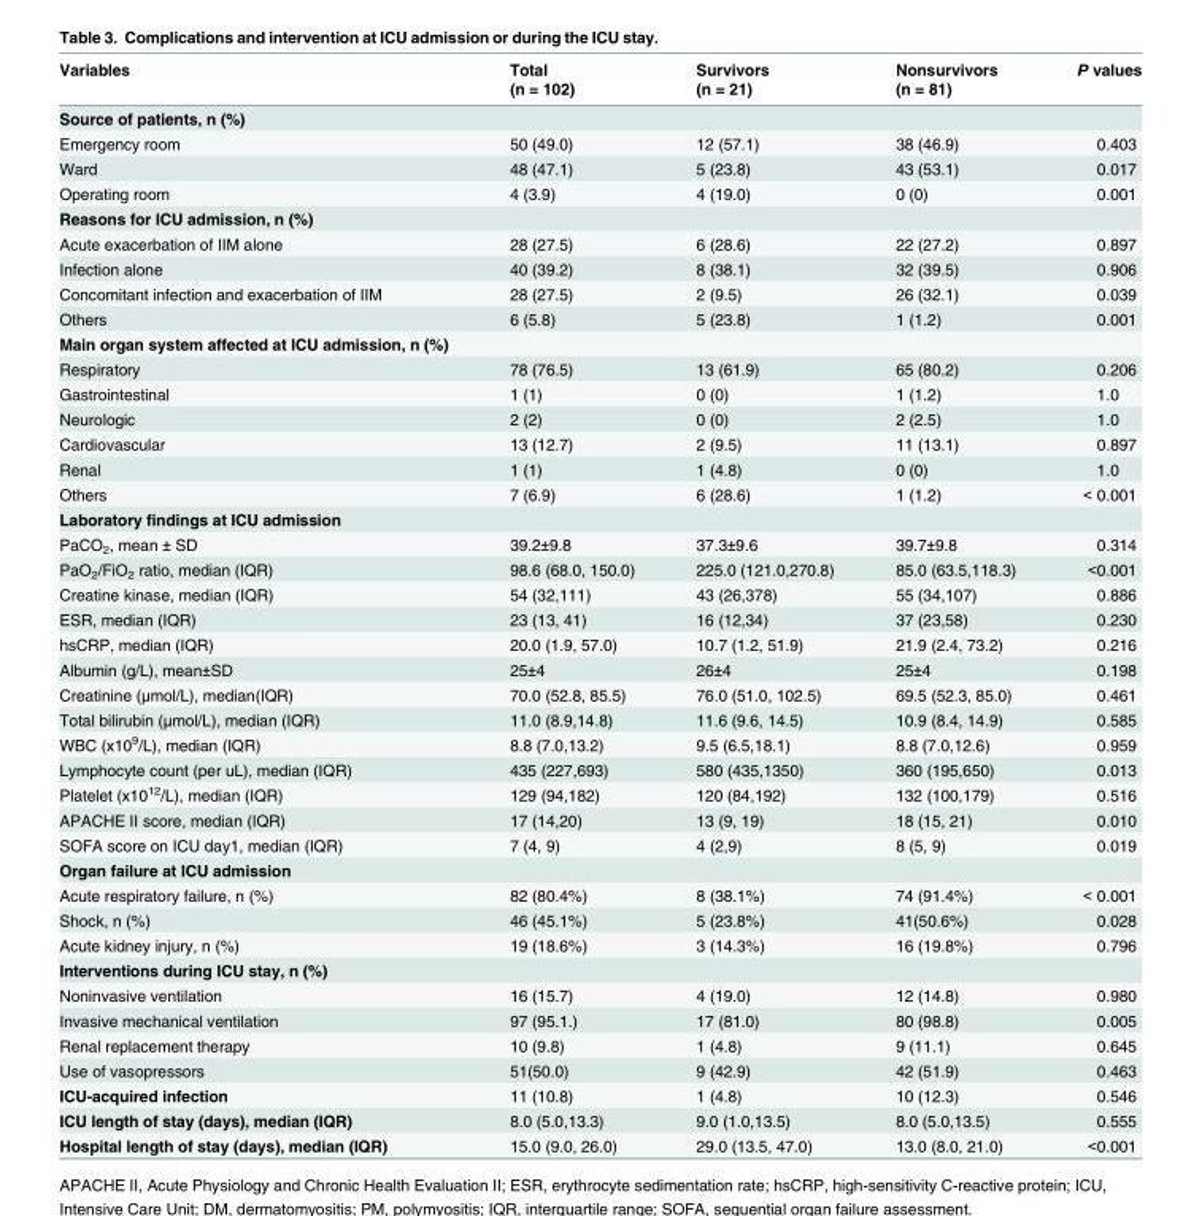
<table><thead><tr><td rowspan="2">Variables</td><td rowspan="2">Total (n = 102)</td><td rowspan="2">Survivors (n = 21)</td><td rowspan="2">Nonsurvivors (n = 81)</td><td rowspan="2">P values</td></tr><tr></tr></thead><tbody><tr><td colspan="5">Source of patients, n (%)</td></tr><tr><td>Emergency room</td><td>50 (49.0)</td><td>12 (57.1)</td><td>38 (46.9)</td><td>0.403</td></tr><tr><td>Ward</td><td>48 (47.1)</td><td>5 (23.8)</td><td>43 (53.1)</td><td>0.017</td></tr><tr><td>Operating room</td><td>4 (3.9)</td><td>4 (19.0)</td><td>0 (0)</td><td>0.001</td></tr><tr><td colspan="5">Reasons for ICU admission, n (%)</td></tr><tr><td>Acute exacerbation of IIM alone</td><td>28 (27.5)</td><td>6 (28.6)</td><td>22 (27.2)</td><td>0.897</td></tr><tr><td>Infection alone</td><td>40 (39.2)</td><td>8 (38.1)</td><td>32 (39.5)</td><td>0.906</td></tr><tr><td>Concomitant infection and exacerbation of IIM</td><td>28 (27.5)</td><td>2 (9.5)</td><td>26 (32.1)</td><td>0.039</td></tr><tr><td>Others</td><td>6 (5.8)</td><td>5 (23.8)</td><td>1 (1.2)</td><td>0.001</td></tr><tr><td colspan="5">Main organ system affected at ICU admission, n (%)</td></tr><tr><td>Respiratory</td><td>78 (76.5)</td><td>13 (61.9)</td><td>65 (80.2)</td><td>0.206</td></tr><tr><td>Gastrointestinal</td><td>1 (1)</td><td>0 (0)</td><td>1 (1.2)</td><td>1.0</td></tr><tr><td>Neurologic</td><td>2 (2)</td><td>0 (0)</td><td>2 (2.5)</td><td>1.0</td></tr><tr><td>Cardiovascular</td><td>13 (12.7)</td><td>2 (9.5)</td><td>11 (13.1)</td><td>0.897</td></tr><tr><td>Renal</td><td>1 (1)</td><td>1 (4.8)</td><td>0 (0)</td><td>1.0</td></tr><tr><td>Others</td><td>7 (6.9)</td><td>6 (28.6)</td><td>1 (1.2)</td><td>&lt; 0.001</td></tr><tr><td colspan="5">Laboratory findings at ICU admission</td></tr><tr><td>PaCO<sub>2</sub>, mean ± SD</td><td>39.2±9.8</td><td>37.3±9.6</td><td>39.7±9.8</td><td>0.314</td></tr><tr><td>PaO<sub>2</sub>/FiO<sub>2</sub> ratio, median (IQR)</td><td>98.6 (68.0, 150.0)</td><td>225.0 (121.0,270.8)</td><td>85.0 (63.5,118.3)</td><td>&lt;0.001</td></tr><tr><td>Creatine kinase, median (IQR)</td><td>54 (32,111)</td><td>43 (26,378)</td><td>55 (34,107)</td><td>0.886</td></tr><tr><td>ESR, median (IQR)</td><td>23 (13, 41)</td><td>16 (12,34)</td><td>37 (23,58)</td><td>0.230</td></tr><tr><td>hsCRP, median (IQR)</td><td>20.0 (1.9, 57.0)</td><td>10.7 (1.2, 51.9)</td><td>21.9 (2.4, 73.2)</td><td>0.216</td></tr><tr><td>Albumin (g/L), mean±SD</td><td>25±4</td><td>26±4</td><td>25±4</td><td>0.198</td></tr><tr><td>Creatinine (μmol/L), median(IQR)</td><td>70.0 (52.8, 85.5)</td><td>76.0 (51.0, 102.5)</td><td>69.5 (52.3, 85.0)</td><td>0.461</td></tr><tr><td>Total bilirubin (μmol/L), median (IQR)</td><td>11.0 (8.9,14.8)</td><td>11.6 (9.6, 14.5)</td><td>10.9 (8.4, 14.9)</td><td>0.585</td></tr><tr><td>WBC (x10<sup>9</sup>/L), median (IQR)</td><td>8.8 (7.0,13.2)</td><td>9.5 (6.5,18.1)</td><td>8.8 (7.0,12.6)</td><td>0.959</td></tr><tr><td>Lymphocyte count (per uL), median (IQR)</td><td>435 (227,693)</td><td>580 (435,1350)</td><td>360 (195,650)</td><td>0.013</td></tr><tr><td>Platelet (x10<sup>12</sup>/L), median (IQR)</td><td>129 (94,182)</td><td>120 (84,192)</td><td>132 (100,179)</td><td>0.516</td></tr><tr><td>APACHE II score, median (IQR)</td><td>17 (14,20)</td><td>13 (9, 19)</td><td>18 (15, 21)</td><td>0.010</td></tr><tr><td>SOFA score on ICU day1, median (IQR)</td><td>7 (4, 9)</td><td>4 (2,9)</td><td>8 (5, 9)</td><td>0.019</td></tr><tr><td colspan="5">Organ failure at ICU admission</td></tr><tr><td>Acute respiratory failure, n (%)</td><td>82 (80.4%)</td><td>8 (38.1%)</td><td>74 (91.4%)</td><td>&lt; 0.001</td></tr><tr><td>Shock, n (%)</td><td>46 (45.1%)</td><td>5 (23.8%)</td><td>41(50.6%)</td><td>0.028</td></tr><tr><td>Acute kidney injury, n (%)</td><td>19 (18.6%)</td><td>3 (14.3%)</td><td>16 (19.8%)</td><td>0.796</td></tr><tr><td colspan="5">Interventions during ICU stay, n (%)</td></tr><tr><td>Noninvasive ventilation</td><td>16 (15.7)</td><td>4 (19.0)</td><td>12 (14.8)</td><td>0.980</td></tr><tr><td>Invasive mechanical ventilation</td><td>97 (95.1.)</td><td>17 (81.0)</td><td>80 (98.8)</td><td>0.005</td></tr><tr><td>Renal replacement therapy</td><td>10 (9.8)</td><td>1 (4.8)</td><td>9 (11.1)</td><td>0.645</td></tr><tr><td>Use of vasopressors</td><td>51(50.0)</td><td>9 (42.9)</td><td>42 (51.9)</td><td>0.463</td></tr><tr><td>ICU-acquired infection</td><td>11 (10.8)</td><td>1 (4.8)</td><td>10 (12.3)</td><td>0.546</td></tr><tr><td>ICU length of stay (days), median (IQR)</td><td>8.0 (5.0,13.3)</td><td>9.0 (1.0,13.5)</td><td>8.0 (5.0,13.5)</td><td>0.555</td></tr><tr><td>Hospital length of stay (days), median (IQR)</td><td>15.0 (9.0, 26.0)</td><td>29.0 (13.5, 47.0)</td><td>13.0 (8.0, 21.0)</td><td>&lt;0.001</td></tr></tbody></table>